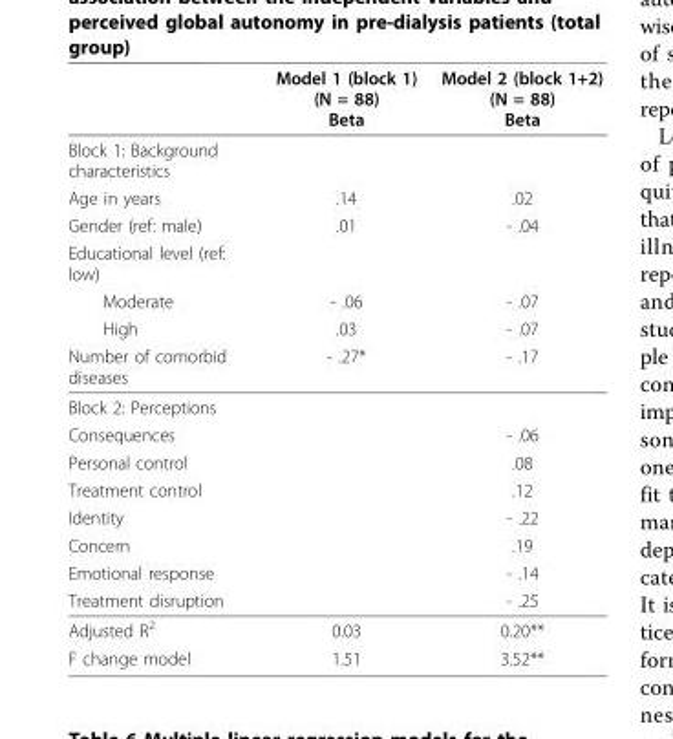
<table><thead><tr><td></td><td>Model 1 (block 1) (N = 88) Beta</td><td>Model 2 (block 1+2) (N = 88) Beta</td></tr></thead><tbody><tr><td colspan="3">Block 1: Background characteristics</td></tr><tr><td>Age in years</td><td>.14</td><td>.02</td></tr><tr><td>Gender (ref: male)</td><td>.01</td><td>- .04</td></tr><tr><td colspan="3">Educational level (ref: low)</td></tr><tr><td>Moderate</td><td>- .06</td><td>- .07</td></tr><tr><td>High</td><td>.03</td><td>- .07</td></tr><tr><td>Number of comorbid diseases</td><td>- .27*</td><td>- .17</td></tr><tr><td colspan="3">Block 2: Perceptions</td></tr><tr><td>Consequences</td><td></td><td>- .06</td></tr><tr><td>Personal control</td><td></td><td>.08</td></tr><tr><td>Treatment control</td><td></td><td>.12</td></tr><tr><td>Identity</td><td></td><td>- .22</td></tr><tr><td>Concern</td><td></td><td>.19</td></tr><tr><td>Emotional response</td><td></td><td>- .14</td></tr><tr><td>Treatment disruption</td><td></td><td>- .25</td></tr><tr><td>Adjusted R<sup>2</sup></td><td>0.03</td><td>0.20**</td></tr><tr><td>F change model</td><td>1.51</td><td>3.52**</td></tr></tbody></table>